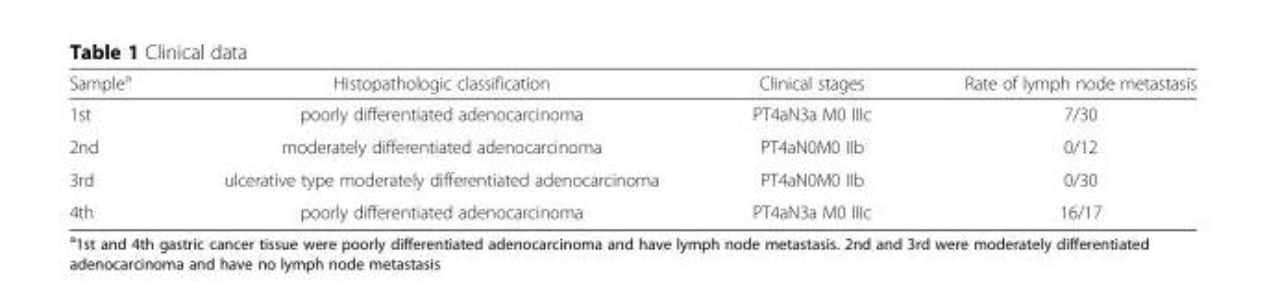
<table><thead><tr><td>Sample<sup>a</sup></td><td>Histopathologic classification</td><td>Clinical stages</td><td>Rate of lymph node metastasis</td></tr></thead><tbody><tr><td>1st</td><td>poorly differentiated adenocarcinoma</td><td>PT4aN3a M0 IIIc</td><td>7/30</td></tr><tr><td>2nd</td><td>moderately differentiated adenocarcinoma</td><td>PT4aN0M0 IIb</td><td>0/12</td></tr><tr><td>3rd</td><td>ulcerative type moderately differentiated adenocarcinoma</td><td>PT4aN0M0 IIb</td><td>0/30</td></tr><tr><td>4th</td><td>poorly differentiated adenocarcinoma</td><td>PT4aN3a M0 IIIc</td><td>16/17</td></tr></tbody></table>